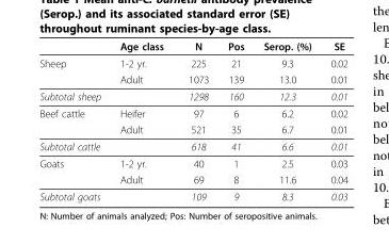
<table><thead><tr><td></td><td>Age class</td><td>N</td><td>Pos</td><td>Serop. (%)</td><td>SE</td></tr></thead><tbody><tr><td rowspan="2">Sheep</td><td>1-2 yr.</td><td>225</td><td>21</td><td>9.3</td><td>0.02</td></tr><tr><td>Adult</td><td>1073</td><td>139</td><td>13.0</td><td>0.01</td></tr><tr><td>Subtotal sheep</td><td></td><td>1298</td><td>160</td><td>12.3</td><td>0.01</td></tr><tr><td rowspan="2">Beef cattle</td><td>Heifer</td><td>97</td><td>6</td><td>6.2</td><td>0.02</td></tr><tr><td>Adult</td><td>521</td><td>35</td><td>6.7</td><td>0.01</td></tr><tr><td>Subtotal cattle</td><td></td><td>618</td><td>41</td><td>6.6</td><td>0.01</td></tr><tr><td rowspan="2">Goats</td><td>1-2 yr.</td><td>40</td><td>1</td><td>2.5</td><td>0.03</td></tr><tr><td>Adult</td><td>69</td><td>8</td><td>11.6</td><td>0.04</td></tr><tr><td>Subtotal goats</td><td></td><td>109</td><td>9</td><td>8.3</td><td>0.03</td></tr></tbody></table>